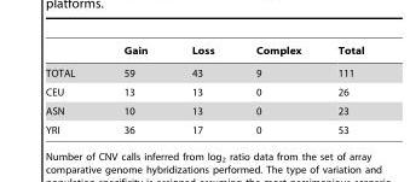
<table><thead><tr><td></td><td>Gain</td><td>Loss</td><td>Complex</td><td>Total</td></tr></thead><tbody><tr><td>TOTAL</td><td>59</td><td>43</td><td>9</td><td>111</td></tr><tr><td>CEU</td><td>13</td><td>13</td><td>0</td><td>26</td></tr><tr><td>ASN</td><td>10</td><td>13</td><td>0</td><td>23</td></tr><tr><td>YRI</td><td>36</td><td>17</td><td>0</td><td>53</td></tr></tbody></table>